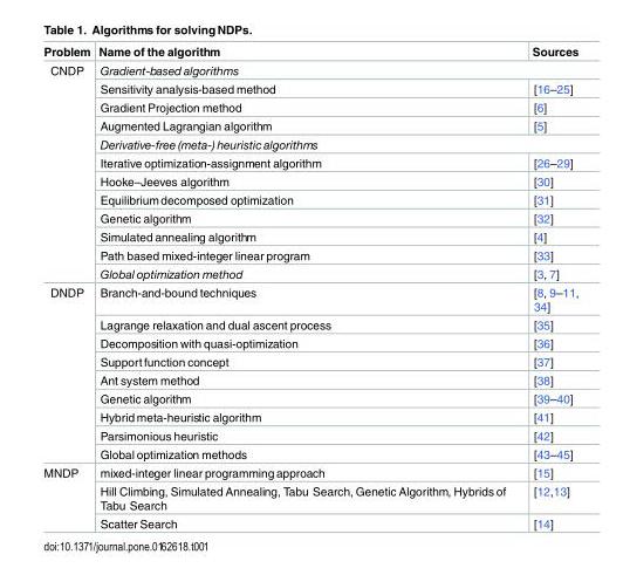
<table><thead><tr><td>Problem</td><td>Name of the algorithm</td><td>Sources</td></tr></thead><tbody><tr><td rowspan="12">CNDP</td><td colspan="2">Gradient-based algorithms</td></tr><tr><td>Sensitivity analysis-based method</td><td>[16–25]</td></tr><tr><td>Gradient Projection method</td><td>[6]</td></tr><tr><td>Augmented Lagrangian algorithm</td><td>[5]</td></tr><tr><td colspan="2">Derivative-free (meta-) heuristic algorithms</td></tr><tr><td>Iterative optimization-assignment algorithm</td><td>[26–29]</td></tr><tr><td>Hooke–Jeeves algorithm</td><td>[30]</td></tr><tr><td>Equilibriumdecomposed optimization</td><td>[31]</td></tr><tr><td>Genetic algorithm</td><td>[32]</td></tr><tr><td>Simulated annealing algorithm</td><td>[4]</td></tr><tr><td>Path based mixed-integer linear program</td><td>[33]</td></tr><tr><td>Global optimization method</td><td>[3, 7]</td></tr><tr><td rowspan="9">DNDP</td><td>Branch-and-bound techniques</td><td>[8, 9–11, 34]</td></tr><tr><td>Lagrange relaxation and dual ascent process</td><td>[35]</td></tr><tr><td>Decomposition with quasi-optimization</td><td>[36]</td></tr><tr><td>Supportfunction concept</td><td>[37]</td></tr><tr><td>Ant system method</td><td>[38]</td></tr><tr><td>Genetic algorithm</td><td>[39–40]</td></tr><tr><td>Hybrid meta-heuristic algorithm</td><td>[41]</td></tr><tr><td>Parsimonious heuristic</td><td>[42]</td></tr><tr><td>Global optimization methods</td><td>[43–45]</td></tr><tr><td rowspan="3">MNDP</td><td>mixed-integer linear programming approach</td><td>[15]</td></tr><tr><td>Hill Climbing, Simulated Annealing, Tabu Search, Genetic Algorithm, Hybrids of Tabu Search</td><td>[12,13]</td></tr><tr><td>Scatter Search</td><td>[14]</td></tr></tbody></table>